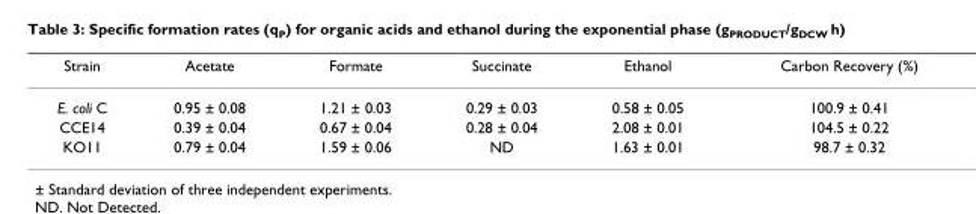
<table><thead><tr><td>Strain</td><td>Acetate</td><td>Formate</td><td>Succinate</td><td>Ethanol</td><td>Carbon Recovery (%)</td></tr></thead><tbody><tr><td>E. coli C</td><td>0.95 ± 0.08</td><td>1.21 ± 0.03</td><td>0.29 ± 0.03</td><td>0.58 ± 0.05</td><td>100.9 ± 0.41</td></tr><tr><td>CCE14</td><td>0.39 ± 0.04</td><td>0.67 ± 0.04</td><td>0.28 ± 0.04</td><td>2.08 ± 0.01</td><td>104.5 ± 0.22</td></tr><tr><td>KO11</td><td>0.79 ± 0.04</td><td>1.59 ± 0.06</td><td>ND</td><td>1.63 ± 0.01</td><td>98.7 ± 0.32</td></tr></tbody></table>